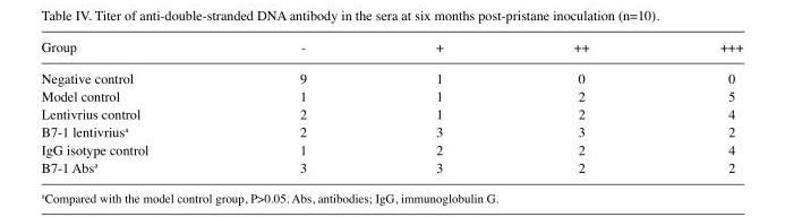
<table><thead><tr><td>Group</td><td>-</td><td>+</td><td>++</td><td>+++</td></tr></thead><tbody><tr><td>Negative control</td><td>9</td><td>1</td><td>0</td><td>0</td></tr><tr><td>Model control</td><td>1</td><td>1</td><td>2</td><td>5</td></tr><tr><td>Lentivrius control</td><td>2</td><td>1</td><td>2</td><td>4</td></tr><tr><td>B7-1 lentivrius<sup>a</sup></td><td>2</td><td>3</td><td>3</td><td>2</td></tr><tr><td>IgG isotype control</td><td>1</td><td>2</td><td>2</td><td>4</td></tr><tr><td>B7-1 Abs<sup>a</sup></td><td>3</td><td>3</td><td>2</td><td>2</td></tr></tbody></table>